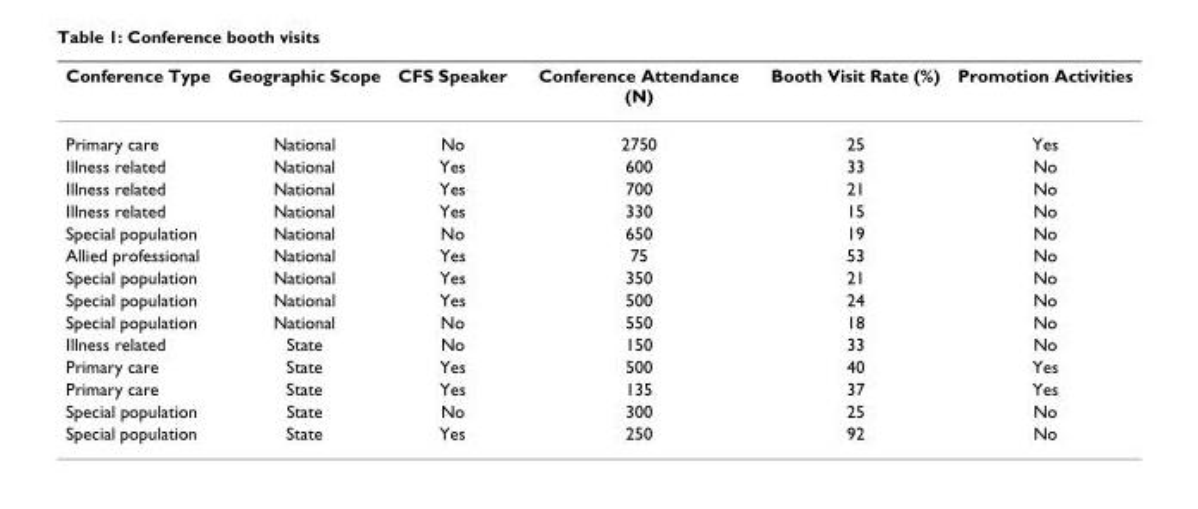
<table><thead><tr><td>Conference Type</td><td>Geographic Scope</td><td>CFS Speaker</td><td>Conference Attendance (N)</td><td>Booth Visit Rate (%)</td><td>Promotion Activities</td></tr></thead><tbody><tr><td>Primary care</td><td>National</td><td>No</td><td>2750</td><td>25</td><td>Yes</td></tr><tr><td>Illness related</td><td>National</td><td>Yes</td><td>600</td><td>33</td><td>No</td></tr><tr><td>Illness related</td><td>National</td><td>Yes</td><td>700</td><td>21</td><td>No</td></tr><tr><td>Illness related</td><td>National</td><td>Yes</td><td>330</td><td>15</td><td>No</td></tr><tr><td>Special population</td><td>National</td><td>No</td><td>650</td><td>19</td><td>No</td></tr><tr><td>Allied professional</td><td>National</td><td>Yes</td><td>75</td><td>53</td><td>No</td></tr><tr><td>Special population</td><td>National</td><td>Yes</td><td>350</td><td>21</td><td>No</td></tr><tr><td>Special population</td><td>National</td><td>Yes</td><td>500</td><td>24</td><td>No</td></tr><tr><td>Special population</td><td>National</td><td>No</td><td>550</td><td>18</td><td>No</td></tr><tr><td>Illness related</td><td>State</td><td>No</td><td>150</td><td>33</td><td>No</td></tr><tr><td>Primary care</td><td>State</td><td>Yes</td><td>500</td><td>40</td><td>Yes</td></tr><tr><td>Primary care</td><td>State</td><td>Yes</td><td>135</td><td>37</td><td>Yes</td></tr><tr><td>Special population</td><td>State</td><td>No</td><td>300</td><td>25</td><td>No</td></tr><tr><td>Special population</td><td>State</td><td>Yes</td><td>250</td><td>92</td><td>No</td></tr></tbody></table>